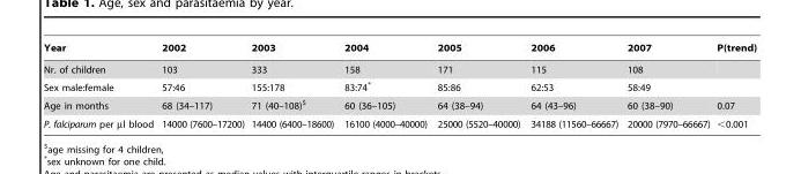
<table><thead><tr><td>Year</td><td>2002</td><td>2003</td><td>2004</td><td>2005</td><td>2006</td><td>2007</td><td>P(trend)</td></tr></thead><tbody><tr><td>Nr. of children</td><td>103</td><td>333</td><td>158</td><td>171</td><td>115</td><td>108</td><td></td></tr><tr><td>Sex male:female</td><td>57:46</td><td>155:178</td><td>83:74*</td><td>85:86</td><td>62:53</td><td>58:49</td><td></td></tr><tr><td>Age in months</td><td>68 (34–117)</td><td>71 (40–108)$</td><td>60 (36–105)</td><td>64 (38–94)</td><td>64 (43–96)</td><td>60 (38–90)</td><td>0.07</td></tr><tr><td>P. falciparum per µl blood</td><td>14000 (7600–17200)</td><td>14400 (6400–18600)</td><td>16100 (4000–40000)</td><td>25000 (5520–40000)</td><td>34188 (11560–66667)</td><td>20000 (7970–66667)</td><td>&lt;0.001</td></tr></tbody></table>